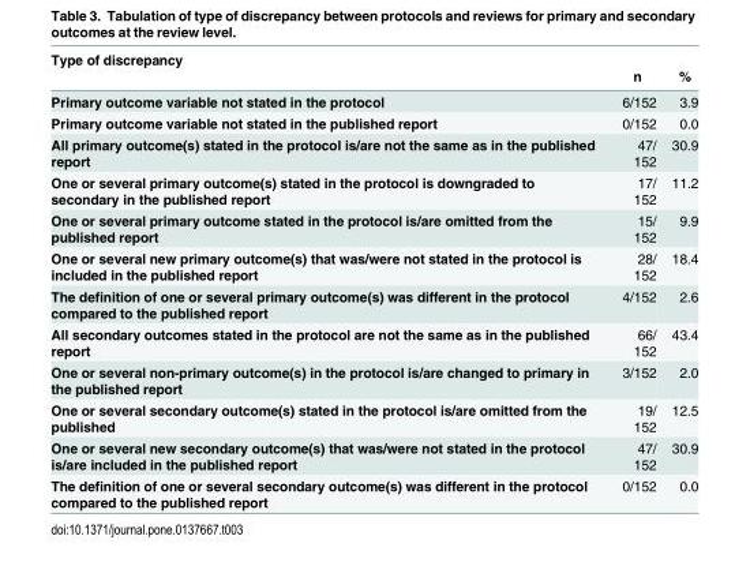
<table><thead><tr><td rowspan="2">Type of discrepancy</td><td rowspan="2">n</td><td rowspan="2">%</td></tr><tr></tr></thead><tbody><tr><td>Primary outcome variable not stated in the protocol</td><td>6/152</td><td>3.9</td></tr><tr><td>Primary outcome variable not stated in the published report</td><td>0/152</td><td>0.0</td></tr><tr><td>All primary outcome(s) stated in the protocol is/are not the same as in the published report</td><td>47/ 152</td><td>30.9</td></tr><tr><td>One or several primary outcome(s) stated in the protocol is downgraded to secondary in the published report</td><td>17/ 152</td><td>11.2</td></tr><tr><td>One or several primary outcome stated in the protocol is/are omitted from the published report</td><td>15/ 152</td><td>9.9</td></tr><tr><td>One or several new primary outcome(s) that was/were not stated in the protocol is included in the published report</td><td>28/ 152</td><td>18.4</td></tr><tr><td>The definition of one or several primary outcome(s) was different in the protocol compared to the published report</td><td>4/152</td><td>2.6</td></tr><tr><td>All secondary outcomes stated in the protocol are not the same as in the published report</td><td>66/ 152</td><td>43.4</td></tr><tr><td>One or several non-primary outcome(s) in the protocol is/are changed to primary in the published report</td><td>3/152</td><td>2.0</td></tr><tr><td>One or several secondary outcome(s) stated in the protocol is/are omitted from the published</td><td>19/ 152</td><td>12.5</td></tr><tr><td>One or several new secondary outcome(s) that was/were not stated in the protocol is/are included in the published report</td><td>47/ 152</td><td>30.9</td></tr><tr><td>The definition of one or several secondary outcome(s) was different in the protocol compared to the published report</td><td>0/152</td><td>0.0</td></tr></tbody></table>